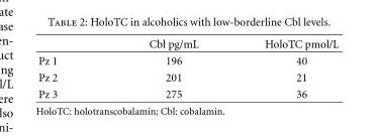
<table><thead><tr><td></td><td>Cbl pg/mL</td><td>HoloTC pmol/L</td></tr></thead><tbody><tr><td>Pz 1</td><td>196</td><td>40</td></tr><tr><td>Pz 2</td><td>201</td><td>21</td></tr><tr><td>Pz 3</td><td>275</td><td>36</td></tr></tbody></table>